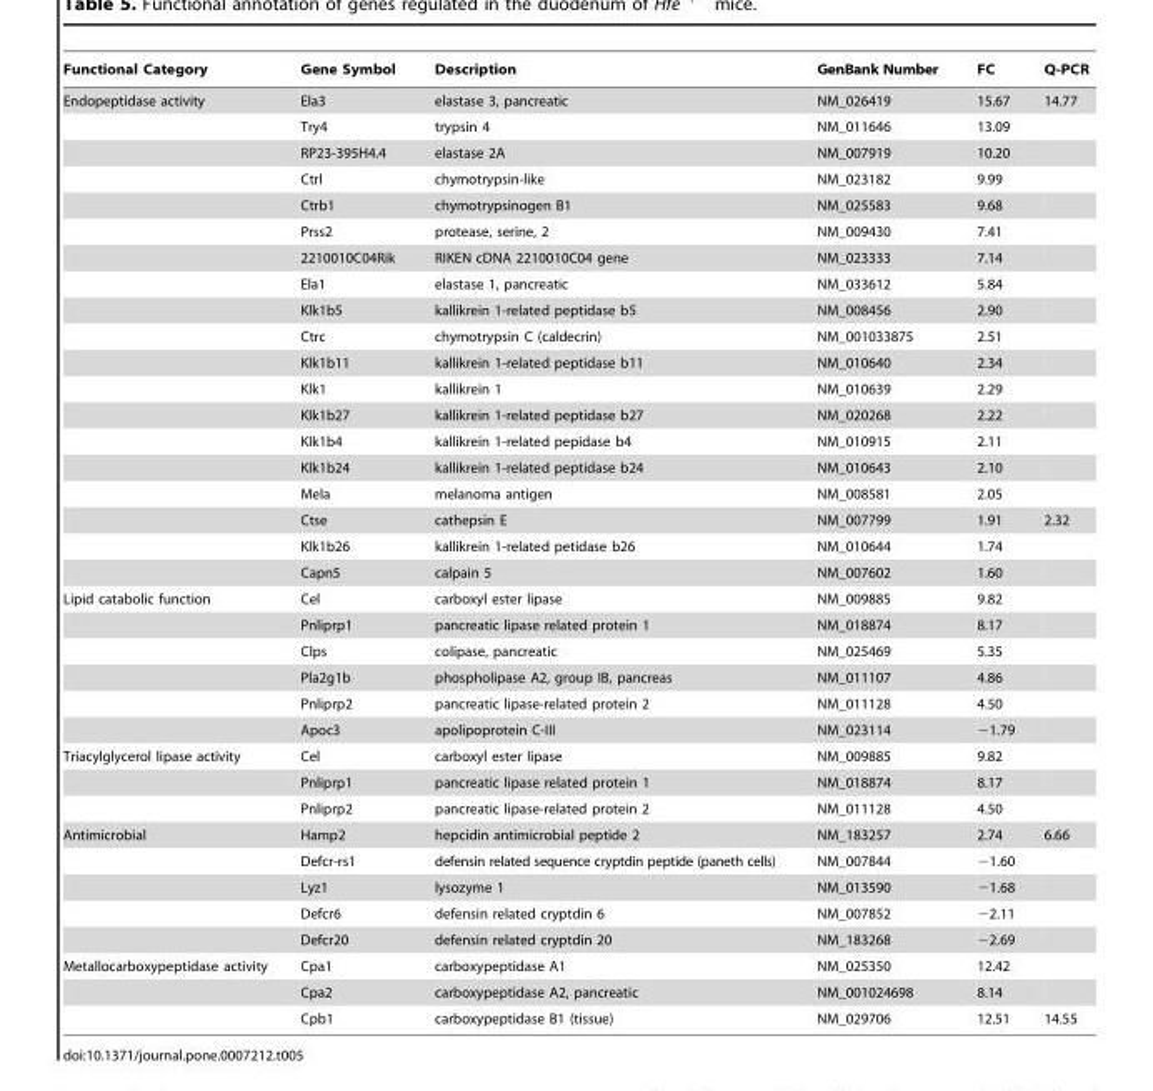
<table><thead><tr><td>Functional Category</td><td>Gene Symbol</td><td>Description</td><td>GenBank Number</td><td>FC</td><td>Q-PCR</td></tr></thead><tbody><tr><td rowspan="19">Endopeptidase activity</td><td>Ela3</td><td>elastase 3, pancreatic</td><td>NM_026419</td><td>15.67</td><td>14.77</td></tr><tr><td>Try4</td><td>trypsin 4</td><td>NM_011646</td><td>13.09</td><td></td></tr><tr><td>RP23-395H4.4</td><td>elastase 2A</td><td>NM_007919</td><td>10.20</td><td></td></tr><tr><td>Ctrl</td><td>chymotrypsin-like</td><td>NM_023182</td><td>9.99</td><td></td></tr><tr><td>Ctrb1</td><td>chymotrypsinogen B1</td><td>NM_025583</td><td>9.68</td><td></td></tr><tr><td>Prss2</td><td>protease, serine, 2</td><td>NM_009430</td><td>7.41</td><td></td></tr><tr><td>2210010C04Rik</td><td>RIKEN cDNA 2210010C04 gene</td><td>NM_023333</td><td>7.14</td><td></td></tr><tr><td>Ela1</td><td>elastase 1, pancreatic</td><td>NM_033612</td><td>5.84</td><td></td></tr><tr><td>Klk1b5</td><td>kallikrein 1-related peptidase b5</td><td>NM_008456</td><td>2.90</td><td></td></tr><tr><td>Ctrc</td><td>chymotrypsin C (caldecrin)</td><td>NM_001033875</td><td>2.51</td><td></td></tr><tr><td>Klk1b11</td><td>kallikrein 1-related peptidase b11</td><td>NM_010640</td><td>2.34</td><td></td></tr><tr><td>Klk1</td><td>kallikrein 1</td><td>NM_010639</td><td>2.29</td><td></td></tr><tr><td>Klk1b27</td><td>kallikrein 1-related peptidase b27</td><td>NM_020268</td><td>2.22</td><td></td></tr><tr><td>Klk1b4</td><td>kallikrein 1-related pepidase b4</td><td>NM_010915</td><td>2.11</td><td></td></tr><tr><td>Klk1b24</td><td>kallikrein 1-related peptidase b24</td><td>NM_010643</td><td>2.10</td><td></td></tr><tr><td>Mela</td><td>melanoma antigen</td><td>NM_008581</td><td>2.05</td><td></td></tr><tr><td>Ctse</td><td>cathepsin E</td><td>NM_007799</td><td>1.91</td><td>2.32</td></tr><tr><td>Klk1b26</td><td>kallikrein 1-related petidase b26</td><td>NM_010644</td><td>1.74</td><td></td></tr><tr><td>Capn5</td><td>calpain 5</td><td>NM_007602</td><td>1.60</td><td></td></tr><tr><td rowspan="6">Lipid catabolic function</td><td>Cel</td><td>carboxyl ester lipase</td><td>NM_009885</td><td>9.82</td><td></td></tr><tr><td>Pnliprp1</td><td>pancreatic lipase related protein 1</td><td>NM_018874</td><td>8.17</td><td></td></tr><tr><td>Clps</td><td>colipase, pancreatic</td><td>NM_025469</td><td>5.35</td><td></td></tr><tr><td>Pla2g1b</td><td>phospholipase A2, group IB, pancreas</td><td>NM_011107</td><td>4.86</td><td></td></tr><tr><td>Pnliprp2</td><td>pancreatic lipase-related protein 2</td><td>NM_011128</td><td>4.50</td><td></td></tr><tr><td>Apoc3</td><td>apolipoprotein C-III</td><td>NM_023114</td><td>−1.79</td><td></td></tr><tr><td rowspan="3">Triacylglycerol lipase activity</td><td>Cel</td><td>carboxyl ester lipase</td><td>NM_009885</td><td>9.82</td><td></td></tr><tr><td>Pnliprp1</td><td>pancreatic lipase related protein 1</td><td>NM_018874</td><td>8.17</td><td></td></tr><tr><td>Pnliprp2</td><td>pancreatic lipase-related protein 2</td><td>NM_011128</td><td>4.50</td><td></td></tr><tr><td rowspan="5">Antimicrobial</td><td>Hamp2</td><td>hepcidin antimicrobial peptide 2</td><td>NM_183257</td><td>2.74</td><td>6.66</td></tr><tr><td>Defcr-rs1</td><td>defensin related sequence cryptdin peptide (paneth cells)</td><td>NM_007844</td><td>−1.60</td><td></td></tr><tr><td>Lyz1</td><td>lysozyme 1</td><td>NM_013590</td><td>−1.68</td><td></td></tr><tr><td>Defcr6</td><td>defensin related cryptdin 6</td><td>NM_007852</td><td>−2.11</td><td></td></tr><tr><td>Defcr20</td><td>defensin related cryptdin 20</td><td>NM_183268</td><td>−2.69</td><td></td></tr><tr><td rowspan="3">Metallocarboxypeptidase activity</td><td>Cpa1</td><td>carboxypeptidase A1</td><td>NM_025350</td><td>12.42</td><td></td></tr><tr><td>Cpa2</td><td>carboxypeptidase A2, pancreatic</td><td>NM_001024698</td><td>8.14</td><td></td></tr><tr><td>Cpb1</td><td>carboxypeptidase B1 (tissue)</td><td>NM_029706</td><td>12.51</td><td>14.55</td></tr></tbody></table>